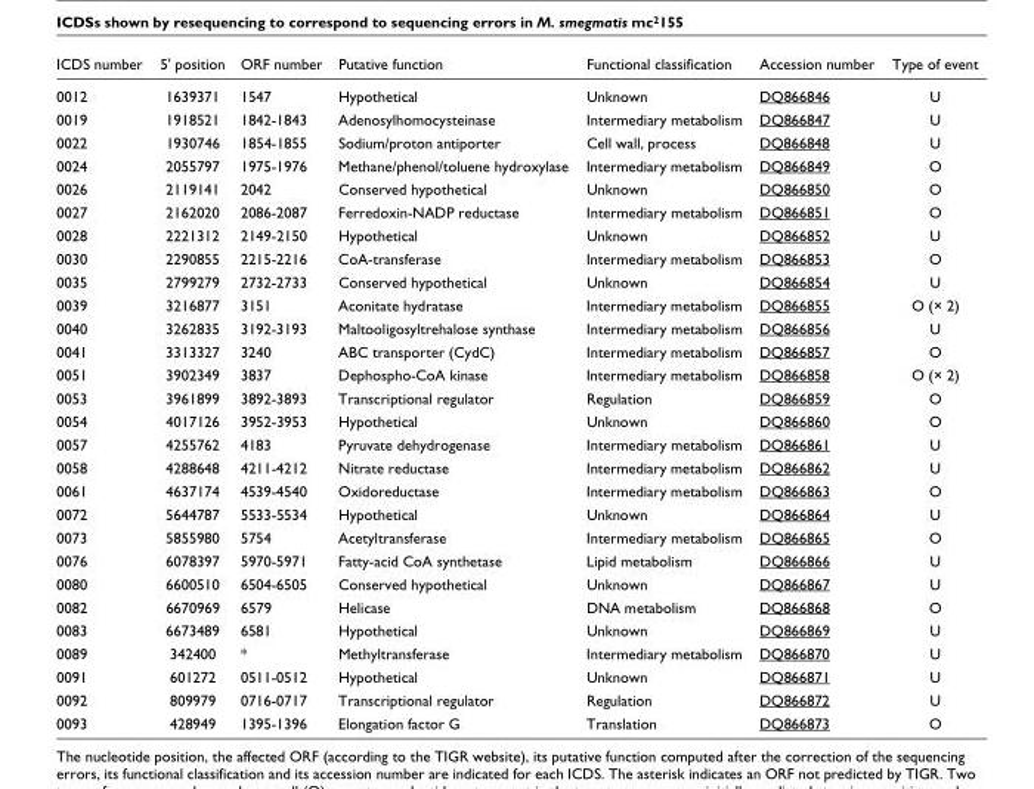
<table><thead><tr><td>ICDS number</td><td>5&#x27; position</td><td>ORF number</td><td>Putative function</td><td>Functional classification</td><td>Accession number</td><td>Type of event</td></tr></thead><tbody><tr><td>0012</td><td>1639371</td><td>1547</td><td>Hypothetical</td><td>Unknown</td><td>DQ866846</td><td>U</td></tr><tr><td>0019</td><td>1918521</td><td>1842-1843</td><td>Adenosylhomocysteinase</td><td>Intermediary metabolism</td><td>DQ866847</td><td>U</td></tr><tr><td>0022</td><td>1930746</td><td>1854-1855</td><td>Sodium/proton antiporter</td><td>Cell wall, process</td><td>DQ866848</td><td>U</td></tr><tr><td>0024</td><td>2055797</td><td>1975-1976</td><td>Methane/phenol/toluene hydroxylase</td><td>Intermediary metabolism</td><td>DQ866849</td><td>O</td></tr><tr><td>0026</td><td>2119141</td><td>2042</td><td>Conserved hypothetical</td><td>Unknown</td><td>DQ866850</td><td>O</td></tr><tr><td>0027</td><td>2162020</td><td>2086-2087</td><td>Ferredoxin-NADP reductase</td><td>Intermediary metabolism</td><td>DQ866851</td><td>O</td></tr><tr><td>0028</td><td>2221312</td><td>2149-2150</td><td>Hypothetical</td><td>Unknown</td><td>DQ866852</td><td>U</td></tr><tr><td>0030</td><td>2290855</td><td>2215-2216</td><td>CoA-transferase</td><td>Intermediary metabolism</td><td>DQ866853</td><td>O</td></tr><tr><td>0035</td><td>2799279</td><td>2732-2733</td><td>Conserved hypothetical</td><td>Unknown</td><td>DQ866854</td><td>U</td></tr><tr><td>0039</td><td>3216877</td><td>3151</td><td>Aconitate hydratase</td><td>Intermediary metabolism</td><td>DQ866855</td><td>O (× 2)</td></tr><tr><td>0040</td><td>3262835</td><td>3192-3193</td><td>Maltooligosyltrehalose synthase</td><td>Intermediary metabolism</td><td>DQ866856</td><td>U</td></tr><tr><td>0041</td><td>3313327</td><td>3240</td><td>ABC transporter (CydC)</td><td>Intermediary metabolism</td><td>DQ866857</td><td>O</td></tr><tr><td>0051</td><td>3902349</td><td>3837</td><td>Dephospho-CoA kinase</td><td>Intermediary metabolism</td><td>DQ866858</td><td>O (× 2)</td></tr><tr><td>0053</td><td>3961899</td><td>3892-3893</td><td>Transcriptional regulator</td><td>Regulation</td><td>DQ866859</td><td>O</td></tr><tr><td>0054</td><td>4017126</td><td>3952-3953</td><td>Hypothetical</td><td>Unknown</td><td>DQ866860</td><td>O</td></tr><tr><td>0057</td><td>4255762</td><td>4183</td><td>Pyruvate dehydrogenase</td><td>Intermediary metabolism</td><td>DQ866861</td><td>U</td></tr><tr><td>0058</td><td>4288648</td><td>4211-4212</td><td>Nitrate reductase</td><td>Intermediary metabolism</td><td>DQ866862</td><td>U</td></tr><tr><td>0061</td><td>4637174</td><td>4539-4540</td><td>Oxidoreductase</td><td>Intermediary metabolism</td><td>DQ866863</td><td>O</td></tr><tr><td>0072</td><td>5644787</td><td>5533-5534</td><td>Hypothetical</td><td>Unknown</td><td>DQ866864</td><td>U</td></tr><tr><td>0073</td><td>5855980</td><td>5754</td><td>Acetyltransferase</td><td>Intermediary metabolism</td><td>DQ866865</td><td>O</td></tr><tr><td>0076</td><td>6078397</td><td>5970-5971</td><td>Fatty-acid CoA synthetase</td><td>Lipid metabolism</td><td>DQ866866</td><td>U</td></tr><tr><td>0080</td><td>6600510</td><td>6504-6505</td><td>Conserved hypothetical</td><td>Unknown</td><td>DQ866867</td><td>U</td></tr><tr><td>0082</td><td>6670969</td><td>6579</td><td>Helicase</td><td>DNA metabolism</td><td>DQ866868</td><td>O</td></tr><tr><td>0083</td><td>6673489</td><td>6581</td><td>Hypothetical</td><td>Unknown</td><td>DQ866869</td><td>U</td></tr><tr><td>0089</td><td>342400</td><td>*</td><td>Methyltransferase</td><td>Intermediary metabolism</td><td>DQ866870</td><td>U</td></tr><tr><td>0091</td><td>601272</td><td>0511-0512</td><td>Hypothetical</td><td>Unknown</td><td>DQ866871</td><td>U</td></tr><tr><td>0092</td><td>809979</td><td>0716-0717</td><td>Transcriptional regulator</td><td>Regulation</td><td>DQ866872</td><td>U</td></tr><tr><td>0093</td><td>428949</td><td>1395-1396</td><td>Elongation factor G</td><td>Translation</td><td>DQ866873</td><td>O</td></tr></tbody></table>